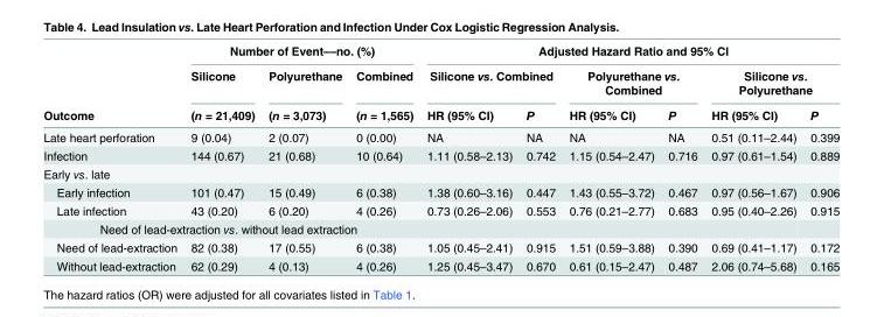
<table><thead><tr><td rowspan="3">Outcome</td><td colspan="3">Number of Event––no. (%)</td><td colspan="6">Adjusted Hazard Ratio and 95% CI</td></tr><tr><td rowspan="2">Silicone (n = 21,409)</td><td rowspan="2">Polyurethane (n = 3,073)</td><td rowspan="2">Combined (n = 1,565)</td><td colspan="2">Silicone vs. Combined</td><td colspan="2">Polyurethane vs. Combined</td><td colspan="2">Silicone vs. Polyurethane</td></tr><tr><td>HR (95% CI)</td><td>P</td><td>HR (95% CI)</td><td>P</td><td>HR (95% CI)</td><td>P</td></tr></thead><tbody><tr><td>Late heart perforation</td><td>9 (0.04)</td><td>2 (0.07)</td><td>0 (0.00)</td><td>NA</td><td>NA</td><td>NA</td><td>NA</td><td>0.51 (0.11–2.44)</td><td>0.399</td></tr><tr><td>Infection</td><td>144 (0.67)</td><td>21 (0.68)</td><td>10 (0.64)</td><td>1.11 (0.58–2.13)</td><td>0.742</td><td>1.15 (0.54–2.47)</td><td>0.716</td><td>0.97 (0.61–1.54)</td><td>0.889</td></tr><tr><td colspan="10">Early vs. late</td></tr><tr><td>Early infection</td><td>101 (0.47)</td><td>15 (0.49)</td><td>6 (0.38)</td><td>1.38 (0.60–3.16)</td><td>0.447</td><td>1.43 (0.55–3.72)</td><td>0.467</td><td>0.97 (0.56–1.67)</td><td>0.906</td></tr><tr><td>Late infection</td><td>43 (0.20)</td><td>6 (0.20)</td><td>4 (0.26)</td><td>0.73 (0.26–2.06)</td><td>0.553</td><td>0.76 (0.21–2.77)</td><td>0.683</td><td>0.95 (0.40–2.26)</td><td>0.915</td></tr><tr><td colspan="10">Need of lead-extraction vs. without lead extraction</td></tr><tr><td>Need of lead-extraction</td><td>82 (0.38)</td><td>17 (0.55)</td><td>6 (0.38)</td><td>1.05 (0.45–2.41)</td><td>0.915</td><td>1.51 (0.59–3.88)</td><td>0.390</td><td>0.69 (0.41–1.17)</td><td>0.172</td></tr><tr><td>Without lead-extraction</td><td>62 (0.29)</td><td>4 (0.13)</td><td>4 (0.26)</td><td>1.25 (0.45–3.47)</td><td>0.670</td><td>0.61 (0.15–2.47)</td><td>0.487</td><td>2.06 (0.74–5.68)</td><td>0.165</td></tr></tbody></table>